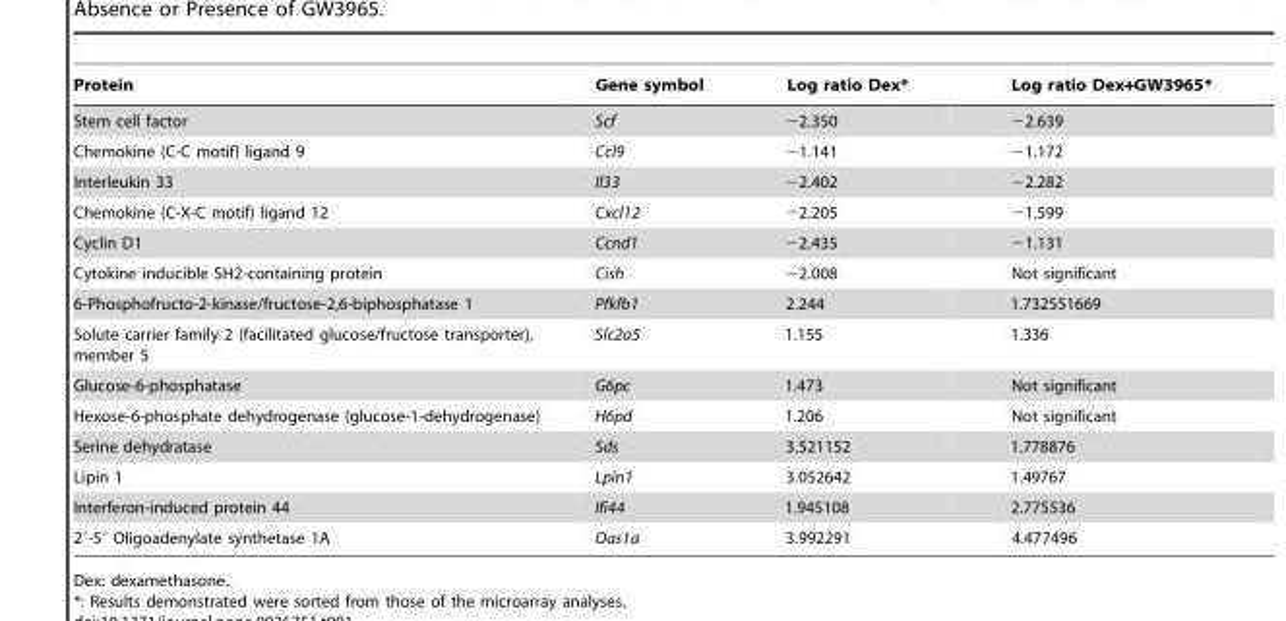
<table><thead><tr><td>Protein</td><td>Gene symbol</td><td>Log ratio Dex*</td><td>Log ratio Dex+GW3965*</td></tr></thead><tbody><tr><td>Stem cell factor</td><td>Scf</td><td>−2.350</td><td>−2.639</td></tr><tr><td>Chemokine (C-C motif) ligand 9</td><td>Ccl9</td><td>−1.141</td><td>−1.172</td></tr><tr><td>Interleukin 33</td><td>Il33</td><td>−2.402</td><td>−2.282</td></tr><tr><td>Chemokine (C-X-C motif) ligand 12</td><td>Cxcl12</td><td>−2.205</td><td>−1.599</td></tr><tr><td>Cyclin D1</td><td>Ccnd1</td><td>−2.435</td><td>−1.131</td></tr><tr><td>Cytokine inducible SH2-containing protein</td><td>Cish</td><td>−2.008</td><td>Not significant</td></tr><tr><td>6-Phosphofructo-2-kinase/fructose-2,6-biphosphatase 1</td><td>Pfkfb1</td><td>2.244</td><td>1.732551669</td></tr><tr><td>Solute carrier family 2 (facilitated glucose/fructose transporter), member 5</td><td>Slc2a5</td><td>1.155</td><td>1.336</td></tr><tr><td>Glucose-6-phosphatase</td><td>G6pc</td><td>1.473</td><td>Not significant</td></tr><tr><td>Hexose-6-phosphate dehydrogenase (glucose-1-dehydrogenase)</td><td>H6pd</td><td>1.206</td><td>Not significant</td></tr><tr><td>Serine dehydratase</td><td>Sds</td><td>3.521152</td><td>1.778876</td></tr><tr><td>Lipin 1</td><td>Lpin1</td><td>3.052642</td><td>1.49767</td></tr><tr><td>Interferon-induced protein 44</td><td>Ifi44</td><td>1.945108</td><td>2.775536</td></tr><tr><td>2′-5′ Oligoadenylate synthetase 1A</td><td>Oas1a</td><td>3.992291</td><td>4.477496</td></tr></tbody></table>